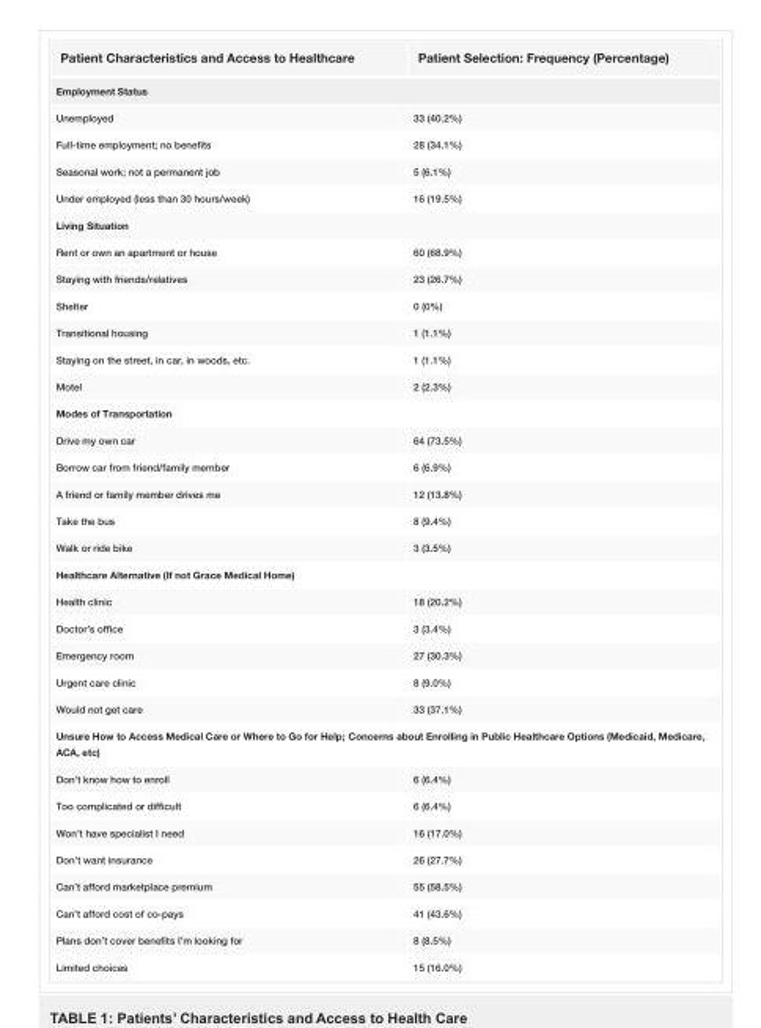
<table><thead><tr><td>Patient Characteristics and Access to Healthcare</td><td>Patient Selection: Frequency (Percentage)</td></tr></thead><tbody><tr><td colspan="2">Employment Status</td></tr><tr><td>Unemployed</td><td>33 (40.2%)</td></tr><tr><td>Full-time employment; no benefits</td><td>28 (34.1%)</td></tr><tr><td>Seasonal work; not a permanent job</td><td>5 (6.1%)</td></tr><tr><td>Under employed (less than 30 hours/week)</td><td>16 (19.5%)</td></tr><tr><td colspan="2">Living Situation</td></tr><tr><td>Rent or own an apartment or house</td><td>60 (68.9%)</td></tr><tr><td>Staying with friends/relatives</td><td>23 (26.7%)</td></tr><tr><td>Shelter</td><td>0 (0%)</td></tr><tr><td>Transitional housing</td><td>1 (1.1%)</td></tr><tr><td>Staying on the street, in car, in woods, etc.</td><td>1 (1.1%)</td></tr><tr><td>Motel</td><td>2 (2.3%)</td></tr><tr><td colspan="2">Modes of Transportation</td></tr><tr><td>Drive my own car</td><td>64 (73.5%)</td></tr><tr><td>Borrow car from friend/family member</td><td>6 (6.9%)</td></tr><tr><td>A friend or family member drives me</td><td>12 (13.8%)</td></tr><tr><td>Take the bus</td><td>8 (9.4%)</td></tr><tr><td>Walk or ride bike</td><td>3 (3.5%)</td></tr><tr><td colspan="2">Healthcare Alternative (If not Grace Medical Home)</td></tr><tr><td>Health clinic</td><td>18 (20.2%)</td></tr><tr><td>Doctor’s office</td><td>3 (3.4%)</td></tr><tr><td>Emergency room</td><td>27 (30.3%)</td></tr><tr><td>Urgent care clinic</td><td>8 (9.0%)</td></tr><tr><td>Would not get care</td><td>33 (37.1%)</td></tr><tr><td colspan="2">Unsure How to Access Medical Care or Where to Go for Help; Concerns about Enrolling in Public Healthcare Options (Medicaid, Medicare, ACA, etc)</td></tr><tr><td>Don’t know how to enroll</td><td>6 (6.4%)</td></tr><tr><td>Too complicated or difficult</td><td>6 (6.4%)</td></tr><tr><td>Won’t have specialist I need</td><td>16 (17.0%)</td></tr><tr><td>Don’t want insurance</td><td>26 (27.7%)</td></tr><tr><td>Can’t afford marketplace premium</td><td>55 (58.5%)</td></tr><tr><td>Can’t afford cost of co-pays</td><td>41 (43.6%)</td></tr><tr><td>Plans don’t cover benefits I’m looking for</td><td>8 (8.5%)</td></tr><tr><td>Limited choices</td><td>15 (16.0%)</td></tr></tbody></table>